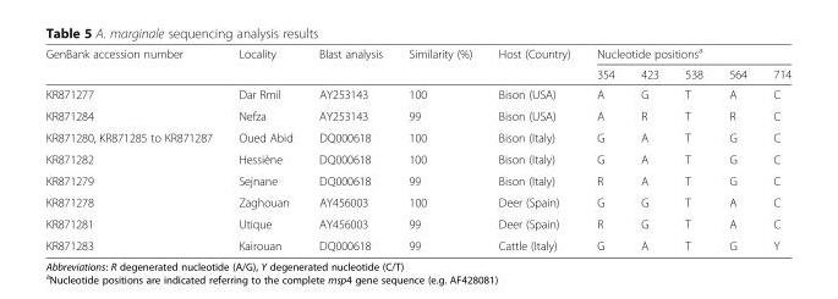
<table><thead><tr><td rowspan="2">GenBank accession number</td><td rowspan="2">Locality</td><td rowspan="2">Blast analysis</td><td rowspan="2">Similarity (%)</td><td rowspan="2">Host (Country)</td><td colspan="5">Nucleotide positions<sup>a</sup></td></tr><tr><td>354</td><td>423</td><td>538</td><td>564</td><td>714</td></tr></thead><tbody><tr><td>KR871277</td><td>Dar Rmil</td><td>AY253143</td><td>100</td><td>Bison (USA)</td><td>A</td><td>G</td><td>T</td><td>A</td><td>C</td></tr><tr><td>KR871284</td><td>Nefza</td><td>AY253143</td><td>99</td><td>Bison (USA)</td><td>A</td><td>R</td><td>T</td><td>R</td><td>C</td></tr><tr><td>KR871280, KR871285 to KR871287</td><td>Oued Abid</td><td>DQ000618</td><td>100</td><td>Bison (Italy)</td><td>G</td><td>A</td><td>T</td><td>G</td><td>C</td></tr><tr><td>KR871282</td><td>Hessiène</td><td>DQ000618</td><td>100</td><td>Bison (Italy)</td><td>G</td><td>A</td><td>T</td><td>G</td><td>C</td></tr><tr><td>KR871279</td><td>Sejnane</td><td>DQ000618</td><td>99</td><td>Bison (Italy)</td><td>R</td><td>A</td><td>T</td><td>G</td><td>C</td></tr><tr><td>KR871278</td><td>Zaghouan</td><td>AY456003</td><td>100</td><td>Deer (Spain)</td><td>G</td><td>G</td><td>T</td><td>A</td><td>C</td></tr><tr><td>KR871281</td><td>Utique</td><td>AY456003</td><td>99</td><td>Deer (Spain)</td><td>R</td><td>G</td><td>T</td><td>A</td><td>C</td></tr><tr><td>KR871283</td><td>Kairouan</td><td>DQ000618</td><td>99</td><td>Cattle (Italy)</td><td>G</td><td>A</td><td>T</td><td>G</td><td>Y</td></tr></tbody></table>